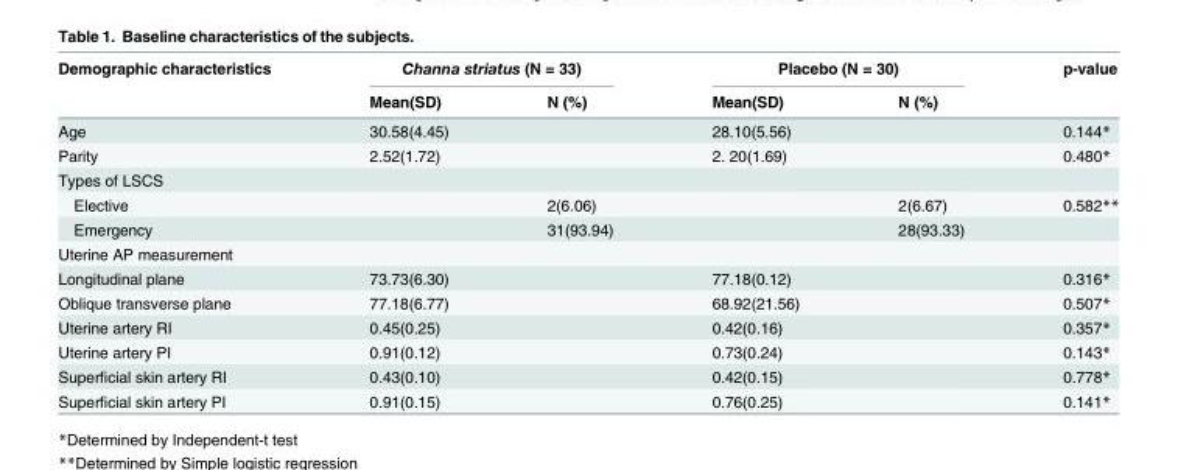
<table><thead><tr><td rowspan="2">Demographic characteristics</td><td colspan="2">Channa striatus (N = 33)</td><td colspan="2">Placebo (N = 30)</td><td rowspan="2">p-value</td></tr><tr><td>Mean(SD)</td><td>N (%)</td><td>Mean(SD)</td><td>N (%)</td></tr></thead><tbody><tr><td>Age</td><td>30.58(4.45)</td><td></td><td>28.10(5.56)</td><td></td><td>0.144*</td></tr><tr><td>Parity</td><td>2.52(1.72)</td><td></td><td>2. 20(1.69)</td><td></td><td>0.480*</td></tr><tr><td colspan="6">Types of LSCS</td></tr><tr><td>Elective</td><td></td><td>2(6.06)</td><td></td><td>2(6.67)</td><td>0.582**</td></tr><tr><td>Emergency</td><td></td><td>31(93.94)</td><td></td><td>28(93.33)</td><td></td></tr><tr><td colspan="6">Uterine AP measurement</td></tr><tr><td>Longitudinal plane</td><td>73.73(6.30)</td><td></td><td>77.18(0.12)</td><td></td><td>0.316*</td></tr><tr><td>Oblique transverse plane</td><td>77.18(6.77)</td><td></td><td>68.92(21.56)</td><td></td><td>0.507*</td></tr><tr><td>Uterine artery RI</td><td>0.45(0.25)</td><td></td><td>0.42(0.16)</td><td></td><td>0.357*</td></tr><tr><td>Uterine artery PI</td><td>0.91(0.12)</td><td></td><td>0.73(0.24)</td><td></td><td>0.143*</td></tr><tr><td>Superficial skin artery RI</td><td>0.43(0.10)</td><td></td><td>0.42(0.15)</td><td></td><td>0.778*</td></tr><tr><td>Superficial skin artery PI</td><td>0.91(0.15)</td><td></td><td>0.76(0.25)</td><td></td><td>0.141*</td></tr></tbody></table>